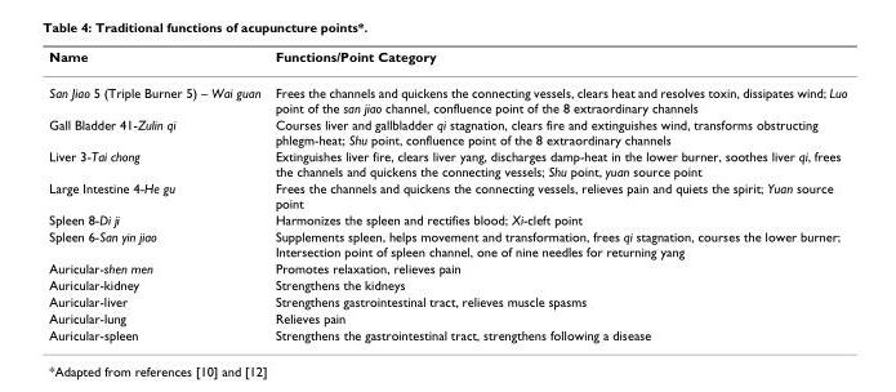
<table><thead><tr><td>Name</td><td>Functions/Point Category</td></tr></thead><tbody><tr><td>San Jiao 5 (Triple Burner 5) – Wai guan</td><td>Frees the channels and quickens the connecting vessels, clears heat and resolves toxin, dissipates wind; Luo point of the san jiao channel, confluence point of the 8 extraordinary channels</td></tr><tr><td>Gall Bladder 41-Zulin qi</td><td>Courses liver and gallbladder qi stagnation, clears fire and extinguishes wind, transforms obstructing phlegm-heat; Shu point, confluence point of the 8 extraordinary channels</td></tr><tr><td>Liver 3-Tai chong</td><td>Extinguishes liver fire, clears liver yang, discharges damp-heat in the lower burner, soothes liver qi, frees the channels and quickens the connecting vessels; Shu point, yuan source point</td></tr><tr><td>Large Intestine 4-He gu</td><td>Frees the channels and quickens the connecting vessels, relieves pain and quiets the spirit; Yuan source point</td></tr><tr><td>Spleen 8-Di ji</td><td>Harmonizes the spleen and rectifies blood; Xi-cleft point</td></tr><tr><td>Spleen 6-San yin jiao</td><td>Supplements spleen, helps movement and transformation, frees qi stagnation, courses the lower burner; Intersection point of spleen channel, one of nine needles for returning yang</td></tr><tr><td>Auricular-shen men</td><td>Promotes relaxation, relieves pain</td></tr><tr><td>Auricular-kidney</td><td>Strengthens the kidneys</td></tr><tr><td>Auricular-liver</td><td>Strengthens gastrointestinal tract, relieves muscle spasms</td></tr><tr><td>Auricular-lung</td><td>Relieves pain</td></tr><tr><td>Auricular-spleen</td><td>Strengthens the gastrointestinal tract, strengthens following a disease</td></tr></tbody></table>